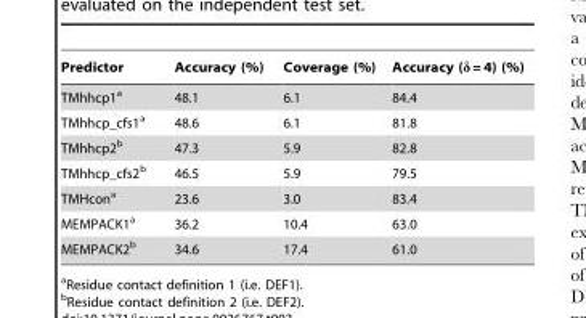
<table><thead><tr><td>Predictor</td><td>Accuracy (%)</td><td>Coverage (%)</td><td>Accuracy (δ = 4) (%)</td></tr></thead><tbody><tr><td>TMhhcp1<sup>a</sup></td><td>48.1</td><td>6.1</td><td>84.4</td></tr><tr><td>TMhhcp_cfs1<sup>a</sup></td><td>48.6</td><td>6.1</td><td>81.8</td></tr><tr><td>TMhhcp2<sup>b</sup></td><td>47.3</td><td>5.9</td><td>82.8</td></tr><tr><td>TMhhcp_cfs2<sup>b</sup></td><td>46.5</td><td>5.9</td><td>79.5</td></tr><tr><td>TMHcon<sup>a</sup></td><td>23.6</td><td>3.0</td><td>83.4</td></tr><tr><td>MEMPACK1<sup>a</sup></td><td>36.2</td><td>10.4</td><td>63.0</td></tr><tr><td>MEMPACK2<sup>b</sup></td><td>34.6</td><td>17.4</td><td>61.0</td></tr></tbody></table>